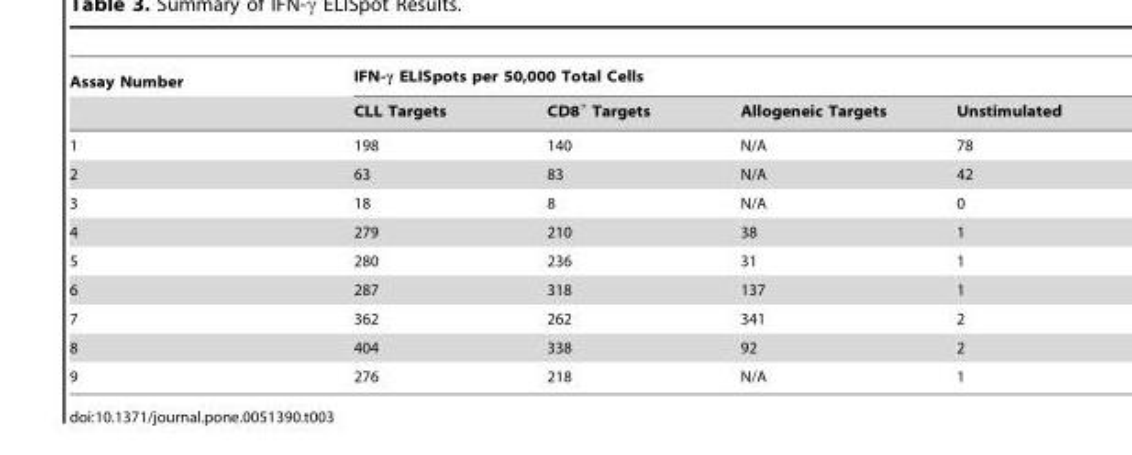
<table><thead><tr><td rowspan="2">Assay Number</td><td colspan="4">IFN-γ ELISpots per 50,000 Total Cells</td></tr><tr><td>CLL Targets</td><td>CD8<sup>+</sup> Targets</td><td>Allogeneic Targets</td><td>Unstimulated</td></tr></thead><tbody><tr><td>1</td><td>198</td><td>140</td><td>N/A</td><td>78</td></tr><tr><td>2</td><td>63</td><td>83</td><td>N/A</td><td>42</td></tr><tr><td>3</td><td>18</td><td>8</td><td>N/A</td><td>0</td></tr><tr><td>4</td><td>279</td><td>210</td><td>38</td><td>1</td></tr><tr><td>5</td><td>280</td><td>236</td><td>31</td><td>1</td></tr><tr><td>6</td><td>287</td><td>318</td><td>137</td><td>1</td></tr><tr><td>7</td><td>362</td><td>262</td><td>341</td><td>2</td></tr><tr><td>8</td><td>404</td><td>338</td><td>92</td><td>2</td></tr><tr><td>9</td><td>276</td><td>218</td><td>N/A</td><td>1</td></tr></tbody></table>